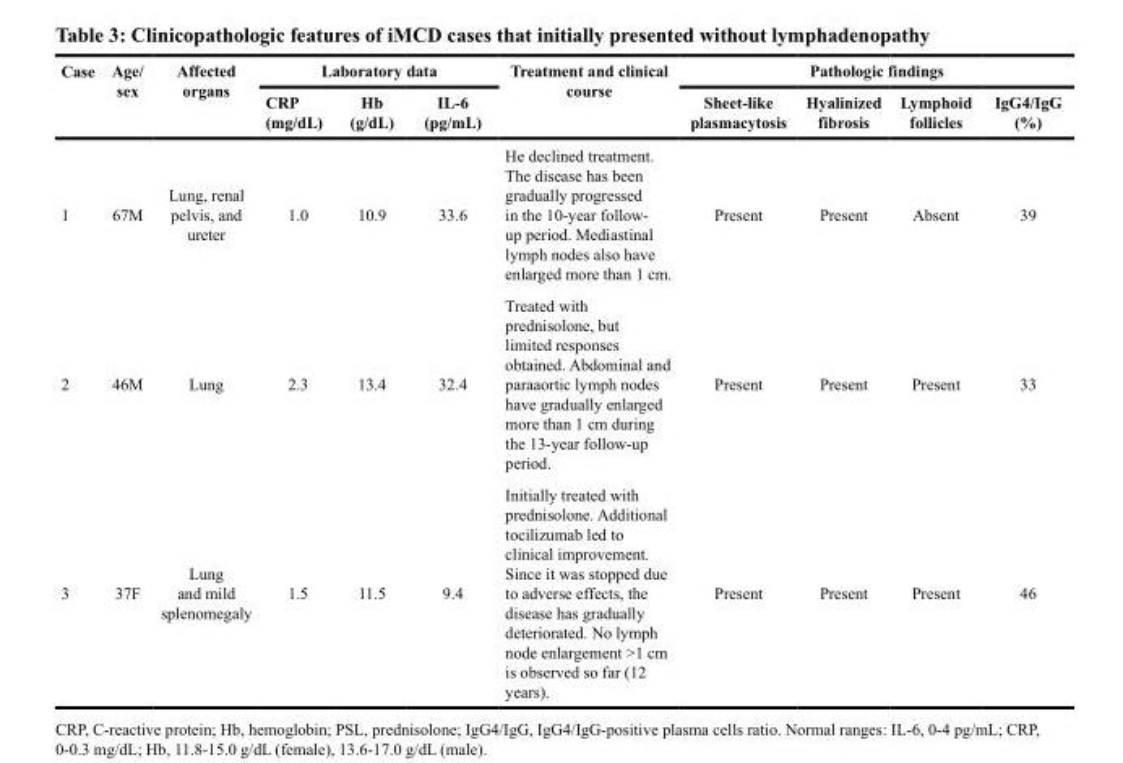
<table><thead><tr><td rowspan="2">Case</td><td rowspan="2">Age/ sex</td><td rowspan="2">Affected organs</td><td colspan="3">Laboratory data</td><td rowspan="2">Treatment and clinical course</td><td colspan="4">Pathologic findings</td></tr><tr><td>CRP (mg/dL)</td><td>Hb (g/dL)</td><td>IL-6 (pg/mL)</td><td>Sheet-like plasmacytosis</td><td>Hyalinized fibrosis</td><td>Lymphoid follicles</td><td>IgG4/IgG (%)</td></tr></thead><tbody><tr><td>1</td><td>67M</td><td>Lung, renal pelvis, and ureter</td><td>1.0</td><td>10.9</td><td>33.6</td><td>He declined treatment. The disease has been gradually progressed in the 10-year follow- up period. Mediastinal lymph nodes also have enlarged more than 1 cm.</td><td>Present</td><td>Present</td><td>Absent</td><td>39</td></tr><tr><td>2</td><td>46M</td><td>Lung</td><td>2.3</td><td>13.4</td><td>32.4</td><td>Treated with prednisolone, but limited responses obtained. Abdominal and paraaortic lymph nodes have gradually enlarged more than 1 cm during the 13-year follow-up period.</td><td>Present</td><td>Present</td><td>Present</td><td>33</td></tr><tr><td>3</td><td>37F</td><td>Lung and mild splenomegaly</td><td>1.5</td><td>11.5</td><td>9.4</td><td>Initially treated with prednisolone. Additional tocilizumab led to clinical improvement. Since it was stopped due to adverse effects, the disease has gradually deteriorated. No lymph node enlargement &gt;1 cm is observed so far (12 years).</td><td>Present</td><td>Present</td><td>Present</td><td>46</td></tr></tbody></table>